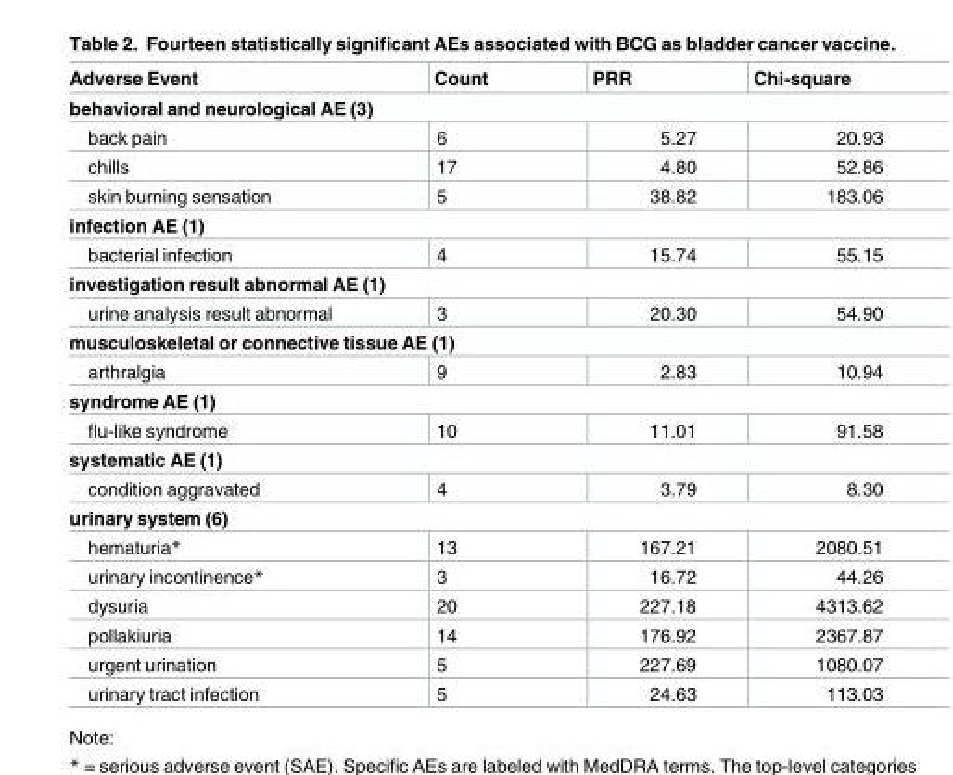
<table><thead><tr><td>Adverse Event</td><td>Count</td><td>PRR</td><td>Chi-square</td></tr></thead><tbody><tr><td colspan="4">behavioral and neurological AE (3)</td></tr><tr><td>back pain</td><td>6</td><td>5.27</td><td>20.93</td></tr><tr><td>chills</td><td>17</td><td>4.80</td><td>52.86</td></tr><tr><td>skin burning sensation</td><td>5</td><td>38.82</td><td>183.06</td></tr><tr><td colspan="4">infection AE (1)</td></tr><tr><td>bacterial infection</td><td>4</td><td>15.74</td><td>55.15</td></tr><tr><td colspan="4">investigation result abnormal AE (1)</td></tr><tr><td>urine analysis result abnormal</td><td>3</td><td>20.30</td><td>54.90</td></tr><tr><td colspan="4">musculoskeletal or connective tissue AE (1)</td></tr><tr><td>arthralgia</td><td>9</td><td>2.83</td><td>10.94</td></tr><tr><td colspan="4">syndrome AE (1)</td></tr><tr><td>flu-like syndrome</td><td>10</td><td>11.01</td><td>91.58</td></tr><tr><td colspan="4">systematic AE (1)</td></tr><tr><td>condition aggravated</td><td>4</td><td>3.79</td><td>8.30</td></tr><tr><td colspan="4">urinary system (6)</td></tr><tr><td>hematuria*</td><td>13</td><td>167.21</td><td>2080.51</td></tr><tr><td>urinary incontinence*</td><td>3</td><td>16.72</td><td>44.26</td></tr><tr><td>dysuria</td><td>20</td><td>227.18</td><td>4313.62</td></tr><tr><td>pollakiuria</td><td>14</td><td>176.92</td><td>2367.87</td></tr><tr><td>urgent urination</td><td>5</td><td>227.69</td><td>1080.07</td></tr><tr><td>urinary tract infection</td><td>5</td><td>24.63</td><td>113.03</td></tr></tbody></table>